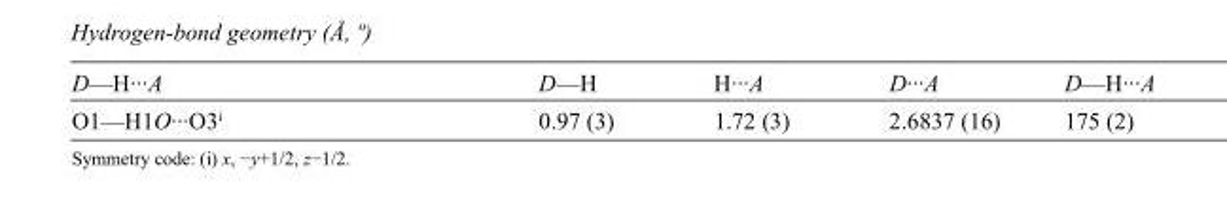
<table><tbody><tr><td>D—H···A</td><td>D—H</td><td>H···A</td><td>D···A</td><td>D—H···A</td></tr><tr><td>O1—H1O···O3<sup>i</sup></td><td>0.97 (3)</td><td>1.72 (3)</td><td>2.6837 (16)</td><td>175 (2)</td></tr></tbody></table>